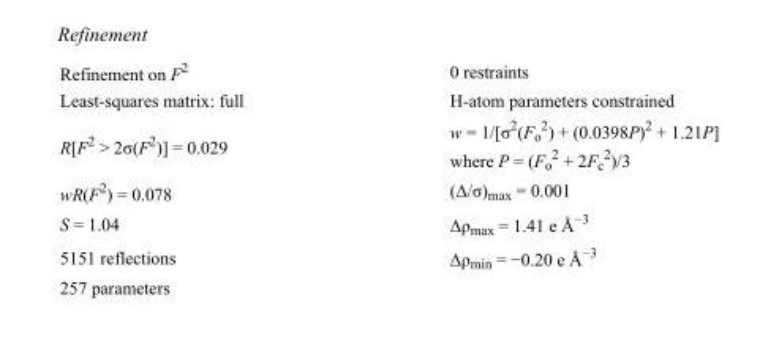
<table><tbody><tr><td>Refinement on F<sup>2</sup></td><td>0 restraints</td></tr><tr><td>Least-squares matrix: full</td><td>H-atom parameters constrained</td></tr><tr><td>R[F<sup>2</sup> &gt; 2σ(F<sup>2</sup>)] = 0.029</td><td>w = 1/[σ<sup>2</sup>(F<sub>o</sub> <sup>2</sup>) + (0.0398P)<sup>2</sup> + 1.21P] where P = (F<sub>o</sub> <sup>2</sup> + 2F<sub>c</sub> <sup>2</sup>)/3</td></tr><tr><td>wR(F<sup>2</sup>) = 0.078</td><td>(Δ/σ)<sub>max</sub> = 0.001</td></tr><tr><td>S = 1.04</td><td>Δρ<sub>max</sub> = 1.41 e Å<sup>−3</sup></td></tr><tr><td>5151 reflections</td><td>Δρ<sub>min</sub> = −0.20 e Å<sup>−3</sup></td></tr><tr><td>257 parameters</td><td></td></tr></tbody></table>